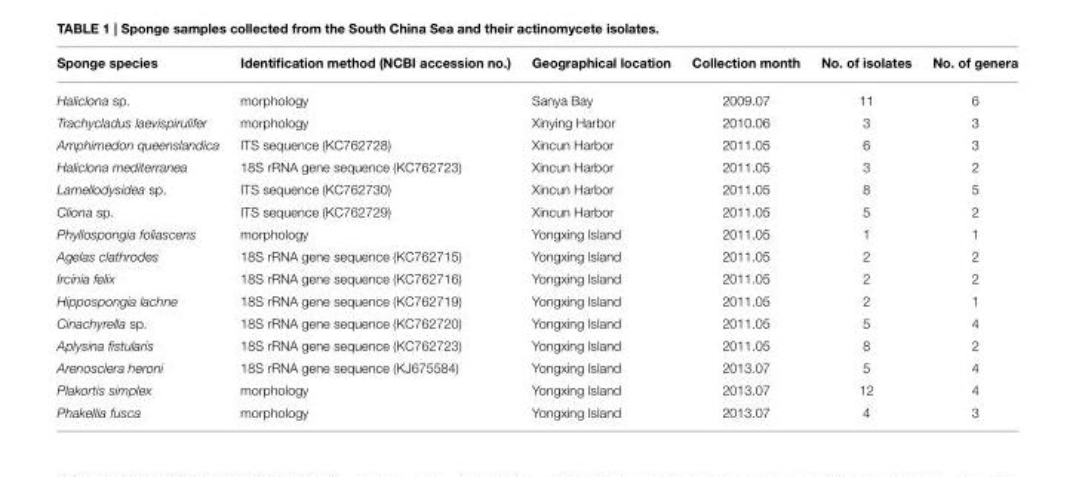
<table><thead><tr><td>Sponge species</td><td>Identification method (NCBI accession no.)</td><td>Geographical location</td><td>Collection month</td><td>No. of isolates</td><td>No. of genera</td></tr></thead><tbody><tr><td>Haliclona sp.</td><td>morphology</td><td>Sanya Bay</td><td>2009.07</td><td>11</td><td>6</td></tr><tr><td>Trachycladus laevispirulifer</td><td>morphology</td><td>Xinying Harbor</td><td>2010.06</td><td>3</td><td>3</td></tr><tr><td>Amphimedon queenslandica</td><td>ITS sequence (KC762728)</td><td>Xincun Harbor</td><td>2011.05</td><td>6</td><td>3</td></tr><tr><td>Haliclona mediterranea</td><td>18S rRNA gene sequence (KC762723)</td><td>Xincun Harbor</td><td>2011.05</td><td>3</td><td>2</td></tr><tr><td>Lamellodysidea sp.</td><td>ITS sequence (KC762730)</td><td>Xincun Harbor</td><td>2011.05</td><td>8</td><td>5</td></tr><tr><td>Cliona sp.</td><td>ITS sequence (KC762729)</td><td>Xincun Harbor</td><td>2011.05</td><td>5</td><td>2</td></tr><tr><td>Phyllospongia foliascens</td><td>morphology</td><td>Yongxing Island</td><td>2011.05</td><td>1</td><td>1</td></tr><tr><td>Agelas clathrodes</td><td>18S rRNA gene sequence (KC762715)</td><td>Yongxing Island</td><td>2011.05</td><td>2</td><td>2</td></tr><tr><td>Ircinia felix</td><td>18S rRNA gene sequence (KC762716)</td><td>Yongxing Island</td><td>2011.05</td><td>2</td><td>2</td></tr><tr><td>Hippospongia lachne</td><td>18S rRNA gene sequence (KC762719)</td><td>Yongxing Island</td><td>2011.05</td><td>2</td><td>1</td></tr><tr><td>Cinachyrella sp.</td><td>18S rRNA gene sequence (KC762720)</td><td>Yongxing Island</td><td>2011.05</td><td>5</td><td>4</td></tr><tr><td>Aplysina fistularis</td><td>18S rRNA gene sequence (KC762723)</td><td>Yongxing Island</td><td>2011.05</td><td>8</td><td>2</td></tr><tr><td>Arenosclera heroni</td><td>18S rRNA gene sequence (KJ675584)</td><td>Yongxing Island</td><td>2013.07</td><td>5</td><td>4</td></tr><tr><td>Plakortis simplex</td><td>morphology</td><td>Yongxing Island</td><td>2013.07</td><td>12</td><td>4</td></tr><tr><td>Phakellia fusca</td><td>morphology</td><td>Yongxing Island</td><td>2013.07</td><td>4</td><td>3</td></tr></tbody></table>